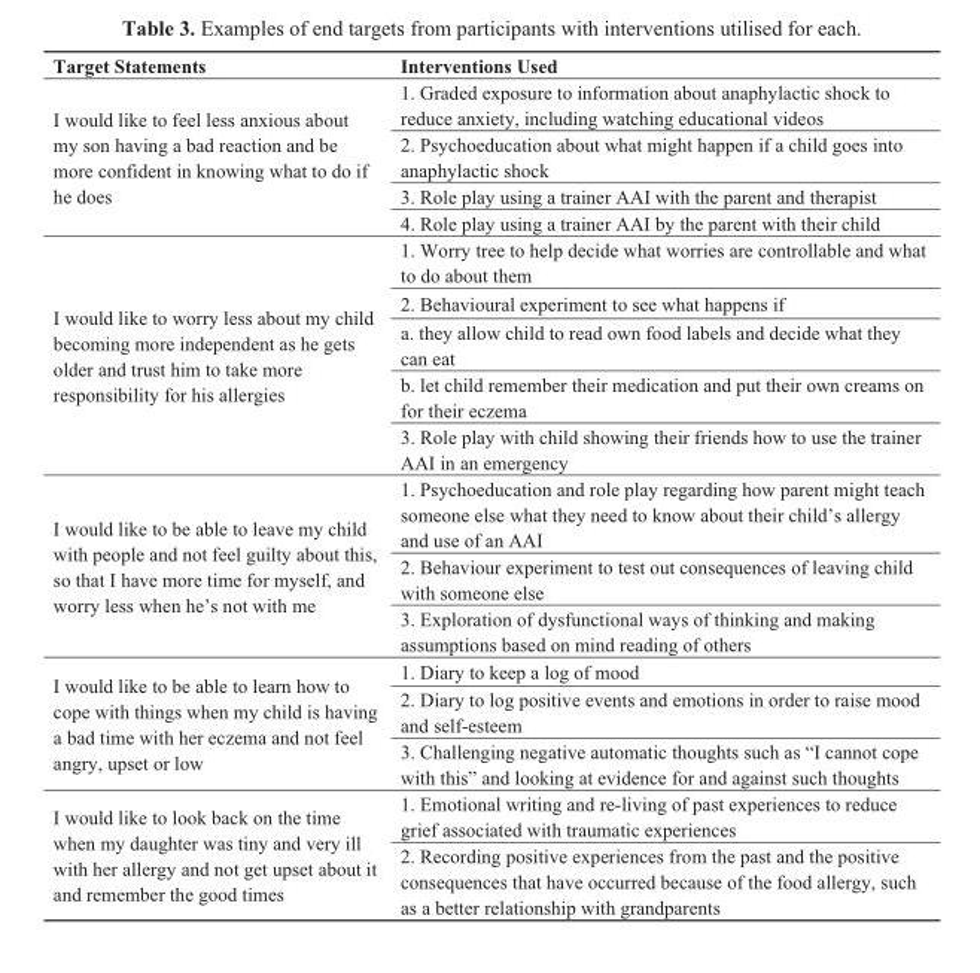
<table><thead><tr><td>Target Statements</td><td>Interventions Used</td></tr></thead><tbody><tr><td rowspan="4">I would like to feel less anxious about my son having a bad reaction and be more confident in knowing what to do if he does</td><td>1. Graded exposure to information about anaphylactic shock to reduce anxiety, including watching educational videos</td></tr><tr><td>2. Psychoeducation about what might happen if a child goes into anaphylactic shock</td></tr><tr><td>3. Role play using a trainer AAI with the parent and therapist</td></tr><tr><td>4. Role play using a trainer AAI by the parent with their child</td></tr><tr><td rowspan="5">I would like to worry less about my child becoming more independent as he gets older and trust him to take more responsibility for his allergies</td><td>1. Worry tree to help decide what worries are controllable and what to do about them</td></tr><tr><td>2. Behavioural experiment to see what happens if</td></tr><tr><td>a. they allow child to read own food labels and decide what they can eat</td></tr><tr><td>b. let child remember their medication and put their own creams on for their eczema</td></tr><tr><td>3. Role play with child showing their friends how to use the trainer AAI in an emergency</td></tr><tr><td rowspan="3">I would like to be able to leave my child with people and not feel guilty about this, so that I have more time for myself, and worry less when he’s not with me</td><td>1. Psychoeducation and role play regarding how parent might teach someone else what they need to know about their child’s allergy and use of an AAI</td></tr><tr><td>2. Behaviour experiment to test out consequences of leaving child with someone else</td></tr><tr><td>3. Exploration of dysfunctional ways of thinking and making assumptions based on mind reading of others</td></tr><tr><td rowspan="3">I would like to be able to learn how to cope with things when my child is having a bad time with her eczema and not feel angry, upset or low</td><td>1. Diary to keep a log of mood</td></tr><tr><td>2. Diary to log positive events and emotions in order to raise mood and self-esteem</td></tr><tr><td>3. Challenging negative automatic thoughts such as “I cannot cope with this” and looking at evidence for and against such thoughts</td></tr><tr><td rowspan="2">I would like to look back on the time when my daughter was tiny and very ill with her allergy and not get upset about it and remember the good times</td><td>1. Emotional writing and re-living of past experiences to reduce grief associated with traumatic experiences</td></tr><tr><td>2. Recording positive experiences from the past and the positive consequences that have occurred because of the food allergy, such as a better relationship with grandparents</td></tr></tbody></table>